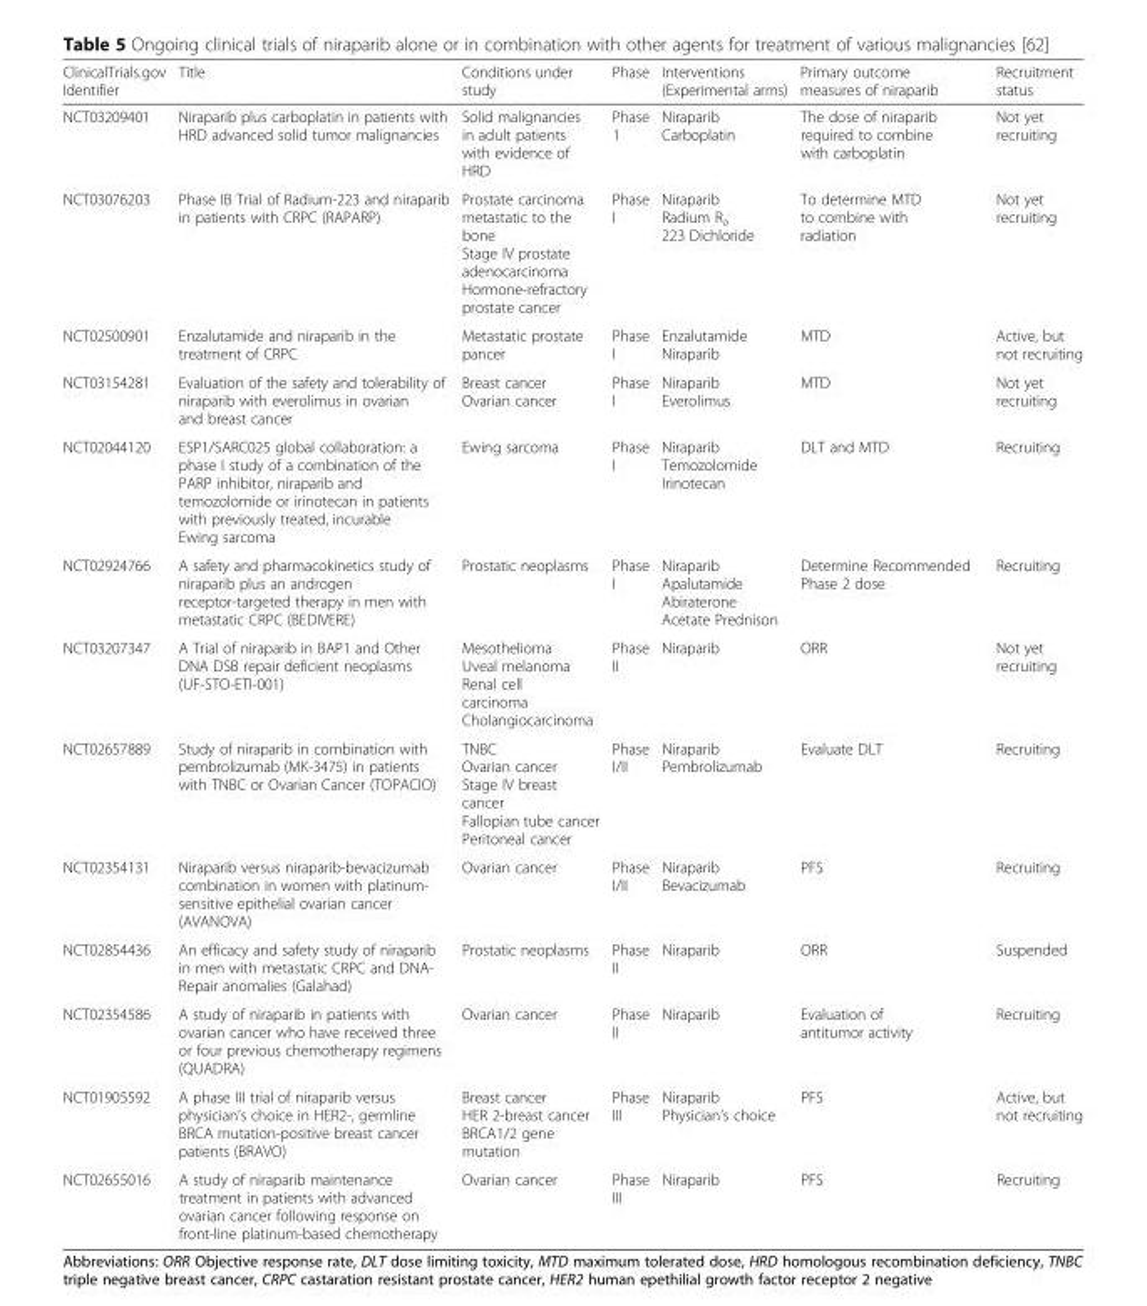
<table><thead><tr><td>ClinicalTrials.gov Identifier</td><td>Title</td><td>Conditions under study</td><td>Phase</td><td>Interventions (Experimental arms)</td><td>Primary outcome measures of niraparib</td><td>Recruitment status</td></tr></thead><tbody><tr><td>NCT03209401</td><td>Niraparib plus carboplatin in patients with HRD advanced solid tumor malignancies</td><td>Solid malignancies in adult patients with evidence of HRD</td><td>Phase 1</td><td>Niraparib Carboplatin</td><td>The dose of niraparib required to combine with carboplatin</td><td>Not yet recruiting</td></tr><tr><td>NCT03076203</td><td>Phase IB Trial of Radium-223 and niraparib in patients with CRPC (RAPARP)</td><td>Prostate carcinoma metastatic to the bone Stage IV prostate adenocarcinoma Hormone-refractory prostate cancer</td><td>Phase I</td><td>Niraparib Radium R<sub>a</sub> 223 Dichloride</td><td>To determine MTD to combine with radiation</td><td>Not yet recruiting</td></tr><tr><td>NCT02500901</td><td>Enzalutamide and niraparib in the treatment of CRPC</td><td>Metastatic prostate pancer</td><td>Phase I</td><td>Enzalutamide Niraparib</td><td>MTD</td><td>Active, but not recruiting</td></tr><tr><td>NCT03154281</td><td>Evaluation of the safety and tolerability of niraparib with everolimus in ovarian and breast cancer</td><td>Breast cancer Ovarian cancer</td><td>Phase I</td><td>Niraparib Everolimus</td><td>MTD</td><td>Not yet recruiting</td></tr><tr><td>NCT02044120</td><td>ESP1/SARC025 global collaboration: a phase I study of a combination of the PARP inhibitor, niraparib and temozolomide or irinotecan in patients with previously treated, incurable Ewing sarcoma</td><td>Ewing sarcoma</td><td>Phase I</td><td>Niraparib Temozolomide Irinotecan</td><td>DLT and MTD</td><td>Recruiting</td></tr><tr><td>NCT02924766</td><td>A safety and pharmacokinetics study of niraparib plus an androgen receptor-targeted therapy in men with metastatic CRPC (BEDIVERE)</td><td>Prostatic neoplasms</td><td>Phase I</td><td>Niraparib Apalutamide Abiraterone Acetate Prednison</td><td>Determine Recommended Phase 2 dose</td><td>Recruiting</td></tr><tr><td>NCT03207347</td><td>A Trial of niraparib in BAP1 and Other DNA DSB repair deficient neoplasms (UF-STO-ETI-001)</td><td>Mesothelioma Uveal melanoma Renal cell carcinoma Cholangiocarcinoma</td><td>Phase II</td><td>Niraparib</td><td>ORR</td><td>Not yet recruiting</td></tr><tr><td>NCT02657889</td><td>Study of niraparib in combination with pembrolizumab (MK-3475) in patients with TNBC or Ovarian Cancer (TOPACIO)</td><td>TNBC Ovarian cancer Stage IV breast cancer Fallopian tube cancer Peritoneal cancer</td><td>Phase I/II</td><td>Niraparib Pembrolizumab</td><td>Evaluate DLT</td><td>Recruiting</td></tr><tr><td>NCT02354131</td><td>Niraparib versus niraparib-bevacizumab combination in women with platinum- sensitive epithelial ovarian cancer (AVANOVA)</td><td>Ovarian cancer</td><td>Phase I/II</td><td>Niraparib Bevacizumab</td><td>PFS</td><td>Recruiting</td></tr><tr><td>NCT02854436</td><td>An efficacy and safety study of niraparib in men with metastatic CRPC and DNA- Repair anomalies (Galahad)</td><td>Prostatic neoplasms</td><td>Phase II</td><td>Niraparib</td><td>ORR</td><td>Suspended</td></tr><tr><td>NCT02354586</td><td>A study of niraparib in patients with ovarian cancer who have received three or four previous chemotherapy regimens (QUADRA)</td><td>Ovarian cancer</td><td>Phase II</td><td>Niraparib</td><td>Evaluation of antitumor activity</td><td>Recruiting</td></tr><tr><td>NCT01905592</td><td>A phase III trial of niraparib versus physician’s choice in HER2-, germline BRCA mutation-positive breast cancer patients (BRAVO)</td><td>Breast cancer HER 2-breast cancer BRCA1/2 gene mutation</td><td>Phase III</td><td>Niraparib Physician’s choice</td><td>PFS</td><td>Active, but not recruiting</td></tr><tr><td>NCT02655016</td><td>A study of niraparib maintenance treatment in patients with advanced ovarian cancer following response on front-line platinum-based chemotherapy</td><td>Ovarian cancer</td><td>Phase III</td><td>Niraparib</td><td>PFS</td><td>Recruiting</td></tr></tbody></table>